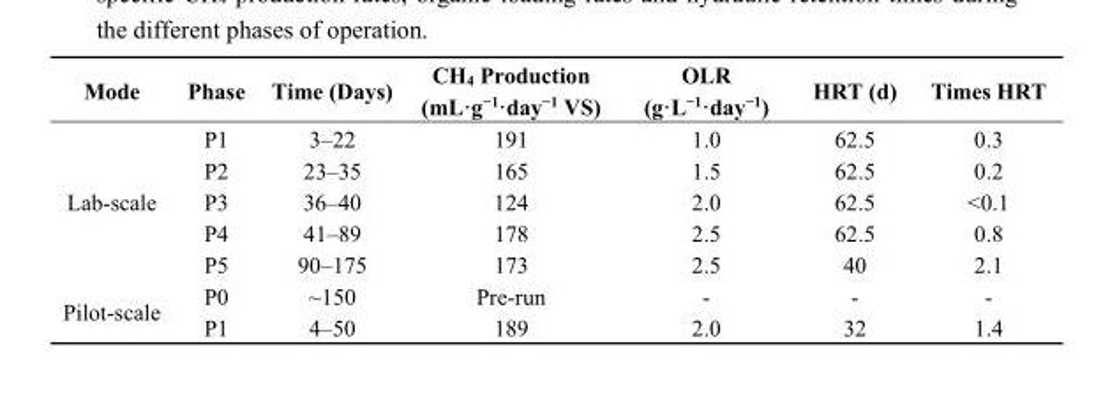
<table><thead><tr><td>Mode</td><td>Phase</td><td>Time (Days)</td><td>CH<sub>4</sub> Production (mL·g<sup>−1</sup>·day<sup>−1</sup> VS)</td><td>OLR (g·L<sup>−1</sup>·day<sup>−1</sup>)</td><td>HRT (d)</td><td>Times HRT</td></tr></thead><tbody><tr><td rowspan="5">Lab-scale</td><td>P1</td><td>3–22</td><td>191</td><td>1.0</td><td>62.5</td><td>0.3</td></tr><tr><td>P2</td><td>23–35</td><td>165</td><td>1.5</td><td>62.5</td><td>0.2</td></tr><tr><td>P3</td><td>36–40</td><td>124</td><td>2.0</td><td>62.5</td><td>&lt;0.1</td></tr><tr><td>P4</td><td>41–89</td><td>178</td><td>2.5</td><td>62.5</td><td>0.8</td></tr><tr><td>P5</td><td>90–175</td><td>173</td><td>2.5</td><td>40</td><td>2.1</td></tr><tr><td rowspan="2">Pilot-scale</td><td>P0</td><td>~150</td><td>Pre-run</td><td>-</td><td>-</td><td>-</td></tr><tr><td>P1</td><td>4–50</td><td>189</td><td>2.0</td><td>32</td><td>1.4</td></tr></tbody></table>